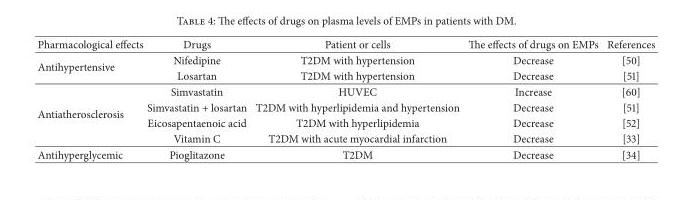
<table><thead><tr><td>Pharmacological effects</td><td>Drugs</td><td>Patient or cells</td><td>The effects of drugs on EMPs</td><td>References</td></tr></thead><tbody><tr><td rowspan="2">Antihypertensive</td><td>Nifedipine</td><td>T2DM with hypertension</td><td>Decrease</td><td>[50]</td></tr><tr><td>Losartan</td><td>T2DM with hypertension</td><td>Decrease</td><td>[51]</td></tr><tr><td rowspan="4">Antiatherosclerosis</td><td>Simvastatin</td><td>HUVEC</td><td>Increase</td><td>[60]</td></tr><tr><td>Simvastatin + losartan</td><td>T2DM with hyperlipidemia and hypertension</td><td>Decrease</td><td>[51]</td></tr><tr><td>Eicosapentaenoic acid</td><td>T2DM with hyperlipidemia</td><td>Decrease</td><td>[52]</td></tr><tr><td>Vitamin C</td><td>T2DM with acute myocardial infarction</td><td>Decrease</td><td>[33]</td></tr><tr><td>Antihyperglycemic</td><td>Pioglitazone</td><td>T2DM</td><td>Decrease</td><td>[34]</td></tr></tbody></table>